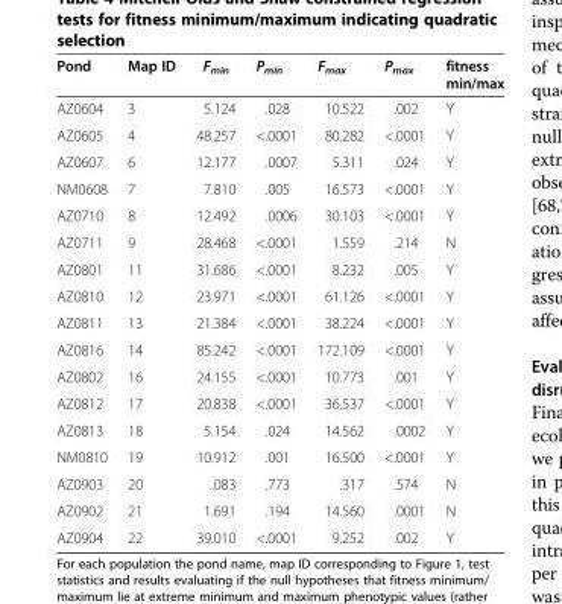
<table><thead><tr><td>Pond</td><td>Map ID</td><td>F<sub>min</sub></td><td>P<sub>min</sub></td><td>F<sub>max</sub></td><td>P<sub>max</sub></td><td>fitness min/max</td></tr></thead><tbody><tr><td>AZ0604</td><td>3</td><td>5.124</td><td>.028</td><td>10.522</td><td>.002</td><td>Y</td></tr><tr><td>AZ0605</td><td>4</td><td>48.257</td><td>&lt;.0001</td><td>80.282</td><td>&lt;.0001</td><td>Y</td></tr><tr><td>AZ0607</td><td>6</td><td>12.177</td><td>.0007</td><td>5.311</td><td>.024</td><td>Y</td></tr><tr><td>NM0608</td><td>7</td><td>7.810</td><td>.005</td><td>16.573</td><td>&lt;.0001</td><td>Y</td></tr><tr><td>AZ0710</td><td>8</td><td>12.492</td><td>.0006</td><td>30.103</td><td>&lt;.0001</td><td>Y</td></tr><tr><td>AZ0711</td><td>9</td><td>28.468</td><td>&lt;.0001</td><td>1.559</td><td>.214</td><td>N</td></tr><tr><td>AZ0801</td><td>11</td><td>31.686</td><td>&lt;.0001</td><td>8.232</td><td>.005</td><td>Y</td></tr><tr><td>AZ0810</td><td>12</td><td>23.971</td><td>&lt;.0001</td><td>61.126</td><td>&lt;.0001</td><td>Y</td></tr><tr><td>AZ0811</td><td>13</td><td>21.384</td><td>&lt;.0001</td><td>38.224</td><td>&lt;.0001</td><td>Y</td></tr><tr><td>AZ0816</td><td>14</td><td>85.242</td><td>&lt;.0001</td><td>172.109</td><td>&lt;.0001</td><td>Y</td></tr><tr><td>AZ0802</td><td>16</td><td>24.155</td><td>&lt;.0001</td><td>10.773</td><td>.001</td><td>Y</td></tr><tr><td>AZ0812</td><td>17</td><td>20.838</td><td>&lt;.0001</td><td>36.537</td><td>&lt;.0001</td><td>Y</td></tr><tr><td>AZ0813</td><td>18</td><td>5.154</td><td>.024</td><td>14.562</td><td>.0002</td><td>Y</td></tr><tr><td>NM0810</td><td>19</td><td>10.912</td><td>.001</td><td>16.500</td><td>&lt;.0001</td><td>Y</td></tr><tr><td>AZ0903</td><td>20</td><td>.083</td><td>.773</td><td>.317</td><td>.574</td><td>N</td></tr><tr><td>AZ0902</td><td>21</td><td>1.691</td><td>.194</td><td>14.560</td><td>.0001</td><td>N</td></tr><tr><td>AZ0904</td><td>22</td><td>39.010</td><td>&lt;.0001</td><td>9.252</td><td>.002</td><td>Y</td></tr></tbody></table>